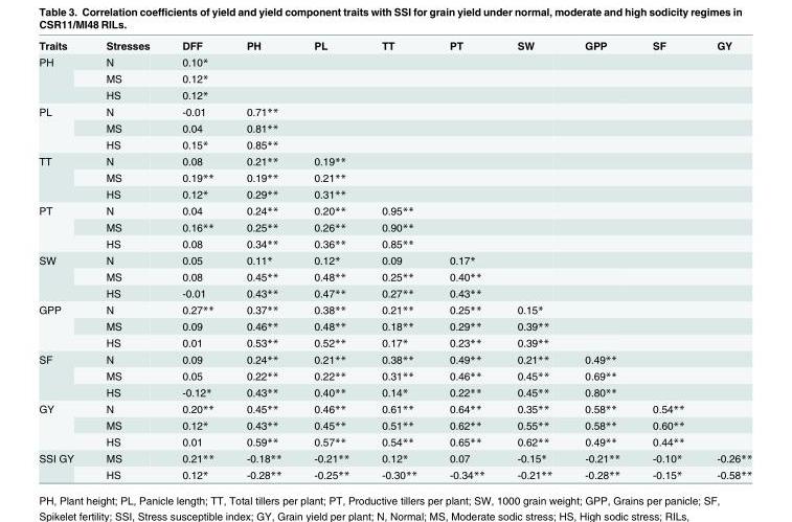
<table><tbody><tr><td>Traits</td><td>Stresses</td><td>DFF</td><td>PH</td><td>PL</td><td>TT</td><td>PT</td><td>SW</td><td>GPP</td><td>SF</td><td>GY</td></tr><tr><td rowspan="3">PH</td><td>N</td><td>0.10*</td><td></td><td></td><td></td><td></td><td></td><td></td><td></td><td></td></tr><tr><td>MS</td><td>0.12*</td><td></td><td></td><td></td><td></td><td></td><td></td><td></td><td></td></tr><tr><td>HS</td><td>0.12*</td><td></td><td></td><td></td><td></td><td></td><td></td><td></td><td></td></tr><tr><td rowspan="3">PL</td><td>N</td><td>-0.01</td><td>0.71**</td><td></td><td></td><td></td><td></td><td></td><td></td><td></td></tr><tr><td>MS</td><td>0.04</td><td>0.81**</td><td></td><td></td><td></td><td></td><td></td><td></td><td></td></tr><tr><td>HS</td><td>0.15*</td><td>0.85**</td><td></td><td></td><td></td><td></td><td></td><td></td><td></td></tr><tr><td rowspan="3">TT</td><td>N</td><td>0.08</td><td>0.21**</td><td>0.19**</td><td></td><td></td><td></td><td></td><td></td><td></td></tr><tr><td>MS</td><td>0.19**</td><td>0.19**</td><td>0.21**</td><td></td><td></td><td></td><td></td><td></td><td></td></tr><tr><td>HS</td><td>0.12*</td><td>0.29**</td><td>0.31**</td><td></td><td></td><td></td><td></td><td></td><td></td></tr><tr><td rowspan="3">PT</td><td>N</td><td>0.04</td><td>0.24**</td><td>0.20**</td><td>0.95**</td><td></td><td></td><td></td><td></td><td></td></tr><tr><td>MS</td><td>0.16**</td><td>0.25**</td><td>0.26**</td><td>0.90**</td><td></td><td></td><td></td><td></td><td></td></tr><tr><td>HS</td><td>0.08</td><td>0.34**</td><td>0.36**</td><td>0.85**</td><td></td><td></td><td></td><td></td><td></td></tr><tr><td rowspan="3">SW</td><td>N</td><td>0.05</td><td>0.11*</td><td>0.12*</td><td>0.09</td><td>0.17*</td><td></td><td></td><td></td><td></td></tr><tr><td>MS</td><td>0.08</td><td>0.45**</td><td>0.48**</td><td>0.25**</td><td>0.40**</td><td></td><td></td><td></td><td></td></tr><tr><td>HS</td><td>-0.01</td><td>0.43**</td><td>0.47**</td><td>0.27**</td><td>0.43**</td><td></td><td></td><td></td><td></td></tr><tr><td rowspan="3">GPP</td><td>N</td><td>0.27**</td><td>0.37**</td><td>0.38**</td><td>0.21**</td><td>0.25**</td><td>0.15*</td><td></td><td></td><td></td></tr><tr><td>MS</td><td>0.09</td><td>0.46**</td><td>0.48**</td><td>0.18**</td><td>0.29**</td><td>0.39**</td><td></td><td></td><td></td></tr><tr><td>HS</td><td>0.01</td><td>0.53**</td><td>0.52**</td><td>0.17*</td><td>0.23**</td><td>0.39**</td><td></td><td></td><td></td></tr><tr><td rowspan="3">SF</td><td>N</td><td>0.09</td><td>0.24**</td><td>0.21**</td><td>0.38**</td><td>0.49**</td><td>0.21**</td><td>0.49**</td><td></td><td></td></tr><tr><td>MS</td><td>0.05</td><td>0.22**</td><td>0.22**</td><td>0.31**</td><td>0.46**</td><td>0.45**</td><td>0.69**</td><td></td><td></td></tr><tr><td>HS</td><td>-0.12*</td><td>0.43**</td><td>0.40**</td><td>0.14*</td><td>0.22**</td><td>0.45**</td><td>0.80**</td><td></td><td></td></tr><tr><td rowspan="3">GY</td><td>N</td><td>0.20**</td><td>0.45**</td><td>0.46**</td><td>0.61**</td><td>0.64**</td><td>0.35**</td><td>0.58**</td><td>0.54**</td><td></td></tr><tr><td>MS</td><td>0.12*</td><td>0.43**</td><td>0.45**</td><td>0.51**</td><td>0.62**</td><td>0.55**</td><td>0.58**</td><td>0.60**</td><td></td></tr><tr><td>HS</td><td>0.01</td><td>0.59**</td><td>0.57**</td><td>0.54**</td><td>0.65**</td><td>0.62**</td><td>0.49**</td><td>0.44**</td><td></td></tr><tr><td rowspan="2">SSI GY</td><td>MS</td><td>0.21**</td><td>-0.18**</td><td>-0.21**</td><td>0.12*</td><td>0.07</td><td>-0.15*</td><td>-0.21**</td><td>-0.10*</td><td>-0.26**</td></tr><tr><td>HS</td><td>0.12*</td><td>-0.28**</td><td>-0.25**</td><td>-0.30**</td><td>-0.34**</td><td>-0.21**</td><td>-0.28**</td><td>-0.15*</td><td>-0.58**</td></tr></tbody></table>